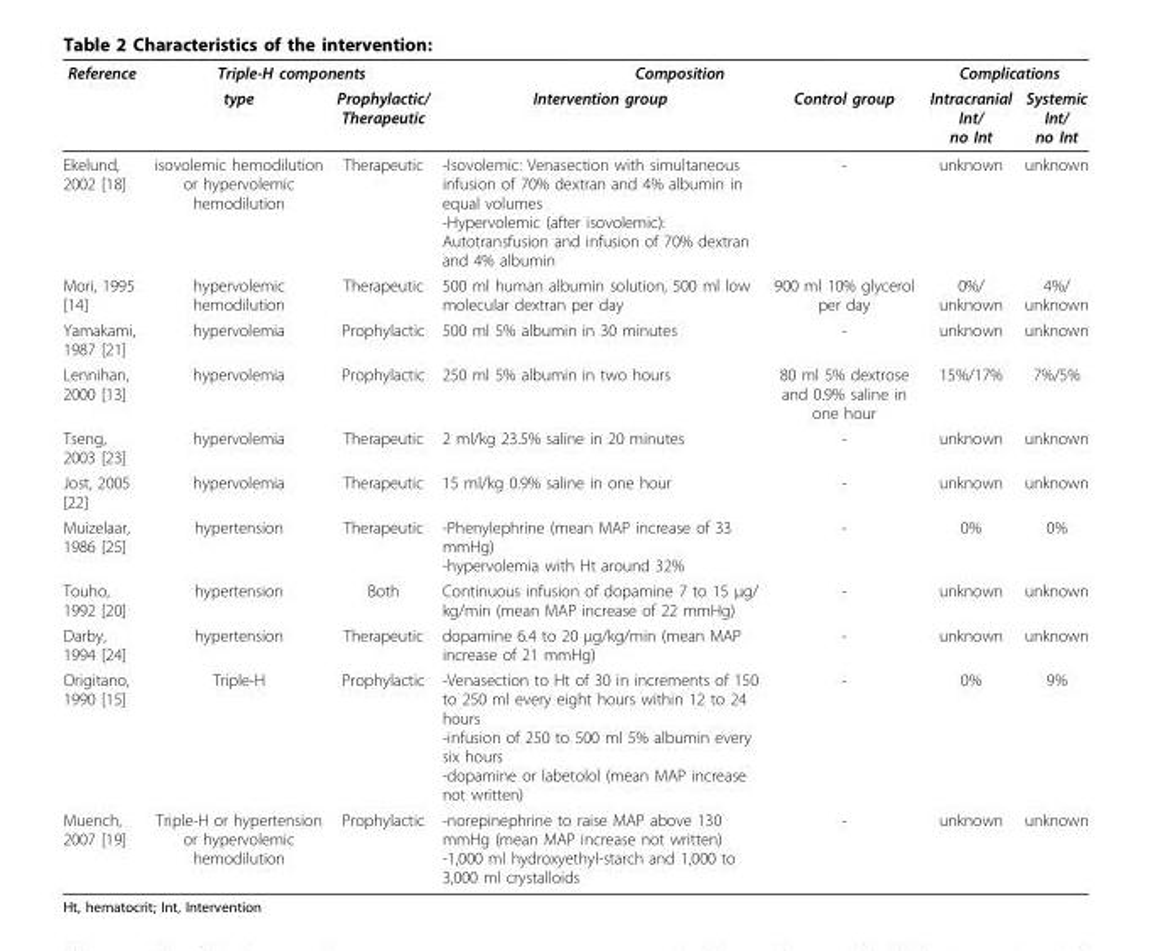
<table><thead><tr><td rowspan="2">Reference</td><td colspan="2">Triple-H components</td><td colspan="2">Composition</td><td colspan="2">Complications</td></tr><tr><td>type</td><td>Prophylactic/ Therapeutic</td><td>Intervention group</td><td>Control group</td><td>Intracranial Int/ no Int</td><td>Systemic Int/ no Int</td></tr></thead><tbody><tr><td>Ekelund, 2002 [18]</td><td>isovolemic hemodilution or hypervolemic hemodilution</td><td>Therapeutic</td><td>-Isovolemic: Venasection with simultaneous infusion of 70% dextran and 4% albumin in equal volumes -Hypervolemic (after isovolemic): Autotransfusion and infusion of 70% dextran and 4% albumin</td><td>-</td><td>unknown</td><td>unknown</td></tr><tr><td>Mori, 1995 [14]</td><td>hypervolemic hemodilution</td><td>Therapeutic</td><td>500 ml human albumin solution, 500 ml low molecular dextran per day</td><td>900 ml 10% glycerol per day</td><td>0%/ unknown</td><td>4%/ unknown</td></tr><tr><td>Yamakami, 1987 [21]</td><td>hypervolemia</td><td>Prophylactic</td><td>500 ml 5% albumin in 30 minutes</td><td>-</td><td>unknown</td><td>unknown</td></tr><tr><td>Lennihan, 2000 [13]</td><td>hypervolemia</td><td>Prophylactic</td><td>250 ml 5% albumin in two hours</td><td>80 ml 5% dextrose and 0.9% saline in one hour</td><td>15%/17%</td><td>7%/5%</td></tr><tr><td>Tseng, 2003 [23]</td><td>hypervolemia</td><td>Therapeutic</td><td>2 ml/kg 23.5% saline in 20 minutes</td><td>-</td><td>unknown</td><td>unknown</td></tr><tr><td>Jost, 2005 [22]</td><td>hypervolemia</td><td>Therapeutic</td><td>15 ml/kg 0.9% saline in one hour</td><td>-</td><td>unknown</td><td>unknown</td></tr><tr><td>Muizelaar, 1986 [25]</td><td>hypertension</td><td>Therapeutic</td><td>-Phenylephrine (mean MAP increase of 33 mmHg) -hypervolemia with Ht around 32%</td><td>-</td><td>0%</td><td>0%</td></tr><tr><td>Touho, 1992 [20]</td><td>hypertension</td><td>Both</td><td>Continuous infusion of dopamine 7 to 15 μg/ kg/min (mean MAP increase of 22 mmHg)</td><td>-</td><td>unknown</td><td>unknown</td></tr><tr><td>Darby, 1994 [24]</td><td>hypertension</td><td>Therapeutic</td><td>dopamine 6.4 to 20 μg/kg/min (mean MAP increase of 21 mmHg)</td><td>-</td><td>unknown</td><td>unknown</td></tr><tr><td>Origitano, 1990 [15]</td><td>Triple-H</td><td>Prophylactic</td><td>-Venasection to Ht of 30 in increments of 150 to 250 ml every eight hours within 12 to 24 hours -infusion of 250 to 500 ml 5% albumin every six hours -dopamine or labetolol (mean MAP increase not written)</td><td>-</td><td>0%</td><td>9%</td></tr><tr><td>Muench, 2007 [19]</td><td>Triple-H or hypertension or hypervolemic hemodilution</td><td>Prophylactic</td><td>-norepinephrine to raise MAP above 130 mmHg (mean MAP increase not written) -1,000 ml hydroxyethyl-starch and 1,000 to 3,000 ml crystalloids</td><td>-</td><td>unknown</td><td>unknown</td></tr></tbody></table>